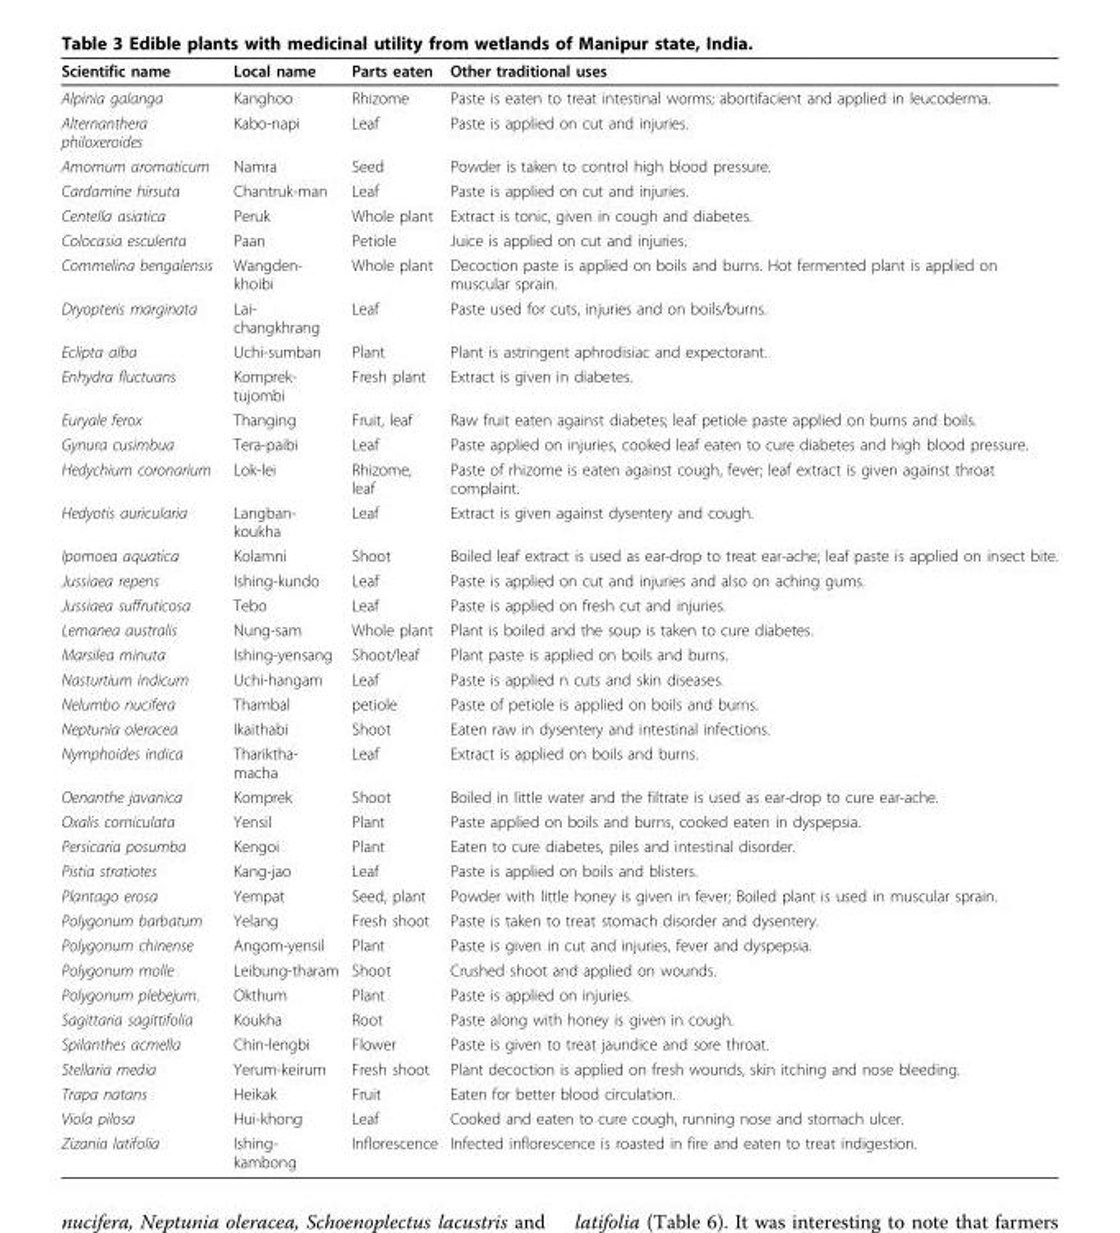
<table><thead><tr><td>Scientific name</td><td>Local name</td><td>Parts eaten</td><td>Other traditional uses</td></tr></thead><tbody><tr><td>Alpinia galanga</td><td>Kanghoo</td><td>Rhizome</td><td>Paste is eaten to treat intestinal worms; abortifacient and applied in leucoderma.</td></tr><tr><td>Alternanthera philoxeroides</td><td>Kabo-napi</td><td>Leaf</td><td>Paste is applied on cut and injuries.</td></tr><tr><td>Amomum aromaticum</td><td>Namra</td><td>Seed</td><td>Powder is taken to control high blood pressure.</td></tr><tr><td>Cardamine hirsuta</td><td>Chantruk-man</td><td>Leaf</td><td>Paste is applied on cut and injuries.</td></tr><tr><td>Centella asiatica</td><td>Peruk</td><td>Whole plant</td><td>Extract is tonic, given in cough and diabetes.</td></tr><tr><td>Colocasia esculenta</td><td>Paan</td><td>Petiole</td><td>Juice is applied on cut and injuries.</td></tr><tr><td>Commelina bengalensis</td><td>Wangden- khoibi</td><td>Whole plant</td><td>Decoction paste is applied on boils and burns. Hot fermented plant is applied on muscular sprain.</td></tr><tr><td>Dryopteris marginata</td><td>Lai- changkhrang</td><td>Leaf</td><td>Paste used for cuts, injuries and on boils/burns.</td></tr><tr><td>Eclipta alba</td><td>Uchi-sumban</td><td>Plant</td><td>Plant is astringent aphrodisiac and expectorant.</td></tr><tr><td>Enhydra fluctuans</td><td>Komprek- tujombi</td><td>Fresh plant</td><td>Extract is given in diabetes.</td></tr><tr><td>Euryale ferox</td><td>Thanging</td><td>Fruit, leaf</td><td>Raw fruit eaten against diabetes; leaf petiole paste applied on burns and boils.</td></tr><tr><td>Gynura cusimbua</td><td>Tera-paibi</td><td>Leaf</td><td>Paste applied on injuries, cooked leaf eaten to cure diabetes and high blood pressure.</td></tr><tr><td>Hedychium coronarium</td><td>Lok-lei</td><td>Rhizome, leaf</td><td>Paste of rhizome is eaten against cough, fever; leaf extract is given against throat complaint.</td></tr><tr><td>Hedyotis auricularia</td><td>Langban- koukha</td><td>Leaf</td><td>Extract is given against dysentery and cough.</td></tr><tr><td>Ipomoea aquatica</td><td>Kolamni</td><td>Shoot</td><td>Boiled leaf extract is used as ear-drop to treat ear-ache; leaf paste is applied on insect bite.</td></tr><tr><td>Jussiaea repens</td><td>Ishing-kundo</td><td>Leaf</td><td>Paste is applied on cut and injuries and also on aching gums.</td></tr><tr><td>Jussiaea suffruticosa</td><td>Tebo</td><td>Leaf</td><td>Paste is applied on fresh cut and injuries.</td></tr><tr><td>Lemanea australis</td><td>Nung-sam</td><td>Whole plant</td><td>Plant is boiled and the soup is taken to cure diabetes.</td></tr><tr><td>Marsilea minuta</td><td>Ishing-yensang</td><td>Shoot/leaf</td><td>Plant paste is applied on boils and burns.</td></tr><tr><td>Nasturtium indicum</td><td>Uchi-hangam</td><td>Leaf</td><td>Paste is applied n cuts and skin diseases.</td></tr><tr><td>Nelumbo nucifera</td><td>Thambal</td><td>petiole</td><td>Paste of petiole is applied on boils and burns.</td></tr><tr><td>Neptunia oleracea</td><td>Ikaithabi</td><td>Shoot</td><td>Eaten raw in dysentery and intestinal infections.</td></tr><tr><td>Nymphoides indica</td><td>Thariktha- macha</td><td>Leaf</td><td>Extract is applied on boils and burns.</td></tr><tr><td>Oenanthe javanica</td><td>Komprek</td><td>Shoot</td><td>Boiled in little water and the filtrate is used as ear-drop to cure ear-ache.</td></tr><tr><td>Oxalis corniculata</td><td>Yensil</td><td>Plant</td><td>Paste applied on boils and burns, cooked eaten in dyspepsia.</td></tr><tr><td>Persicaria posumba</td><td>Kengoi</td><td>Plant</td><td>Eaten to cure diabetes, piles and intestinal disorder.</td></tr><tr><td>Pistia stratiotes</td><td>Kang-jao</td><td>Leaf</td><td>Paste is applied on boils and blisters.</td></tr><tr><td>Plantago erosa</td><td>Yempat</td><td>Seed, plant</td><td>Powder with little honey is given in fever; Boiled plant is used in muscular sprain.</td></tr><tr><td>Polygonum barbatum</td><td>Yelang</td><td>Fresh shoot</td><td>Paste is taken to treat stomach disorder and dysentery.</td></tr><tr><td>Polygonum chinense</td><td>Angom-yensil</td><td>Plant</td><td>Paste is given in cut and injuries, fever and dyspepsia.</td></tr><tr><td>Polygonum molle</td><td>Leibung-tharam</td><td>Shoot</td><td>Crushed shoot and applied on wounds.</td></tr><tr><td>Polygonum plebejum.</td><td>Okthum</td><td>Plant</td><td>Paste is applied on injuries.</td></tr><tr><td>Sagittaria sagittifolia</td><td>Koukha</td><td>Root</td><td>Paste along with honey is given in cough.</td></tr><tr><td>Spilanthes acmella</td><td>Chin-lengbi</td><td>Flower</td><td>Paste is given to treat jaundice and sore throat.</td></tr><tr><td>Stellaria media</td><td>Yerum-keirum</td><td>Fresh shoot</td><td>Plant decoction is applied on fresh wounds, skin itching and nose bleeding.</td></tr><tr><td>Trapa natans</td><td>Heikak</td><td>Fruit</td><td>Eaten for better blood circulation.</td></tr><tr><td>Viola pilosa</td><td>Hui-khong</td><td>Leaf</td><td>Cooked and eaten to cure cough, running nose and stomach ulcer.</td></tr><tr><td>Zizania latifolia</td><td>Ishing- kambong</td><td>Inflorescence</td><td>Infected inflorescence is roasted in fire and eaten to treat indigestion.</td></tr></tbody></table>